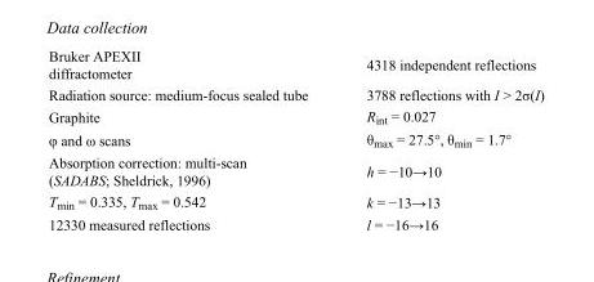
<table><tbody><tr><td>Bruker APEXII diffractometer</td><td>4318 independent reflections</td></tr><tr><td>Radiation source: medium-focus sealed tube</td><td>3788 reflections with I &gt; 2σ(I)</td></tr><tr><td>Graphite</td><td>R<sub>int</sub> = 0.027</td></tr><tr><td>φ and ω scans</td><td>θ<sub>max</sub> = 27.5°, θ<sub>min</sub> = 1.7°</td></tr><tr><td>Absorption correction: multi-scan (SADABS; Sheldrick, 1996)</td><td>h = −10→10</td></tr><tr><td>T<sub>min</sub> = 0.335, T<sub>max</sub> = 0.542</td><td>k = −13→13</td></tr><tr><td>12330 measured reflections</td><td>l = −16→16</td></tr></tbody></table>